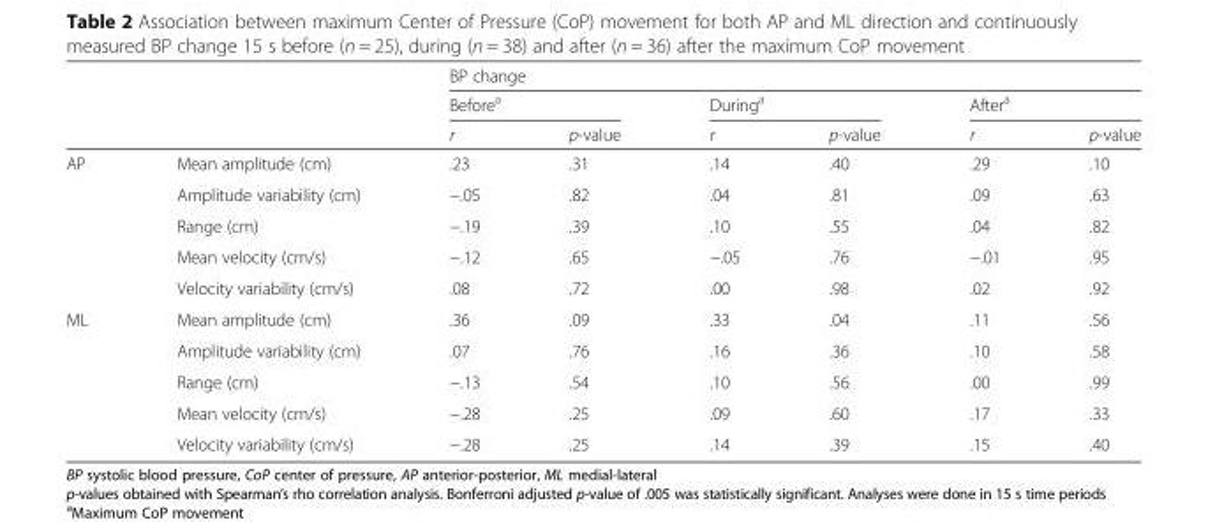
<table><thead><tr><td rowspan="3"></td><td rowspan="3"></td><td colspan="6">BP change</td></tr><tr><td colspan="2">Before<sup>a</sup></td><td colspan="2">During<sup>a</sup></td><td colspan="2">After<sup>a</sup></td></tr><tr><td>r</td><td>p-value</td><td>r</td><td>p-value</td><td>r</td><td>p-value</td></tr></thead><tbody><tr><td rowspan="5">AP</td><td>Mean amplitude (cm)</td><td>.23</td><td>.31</td><td>.14</td><td>.40</td><td>.29</td><td>.10</td></tr><tr><td>Amplitude variability (cm)</td><td>−.05</td><td>.82</td><td>.04</td><td>.81</td><td>.09</td><td>.63</td></tr><tr><td>Range (cm)</td><td>−.19</td><td>.39</td><td>.10</td><td>.55</td><td>.04</td><td>.82</td></tr><tr><td>Mean velocity (cm/s)</td><td>−.12</td><td>.65</td><td>−.05</td><td>.76</td><td>−.01</td><td>.95</td></tr><tr><td>Velocity variability (cm/s)</td><td>.08</td><td>.72</td><td>.00</td><td>.98</td><td>.02</td><td>.92</td></tr><tr><td rowspan="5">ML</td><td>Mean amplitude (cm)</td><td>.36</td><td>.09</td><td>.33</td><td>.04</td><td>.11</td><td>.56</td></tr><tr><td>Amplitude variability (cm)</td><td>.07</td><td>.76</td><td>.16</td><td>.36</td><td>.10</td><td>.58</td></tr><tr><td>Range (cm)</td><td>−.13</td><td>.54</td><td>.10</td><td>.56</td><td>.00</td><td>.99</td></tr><tr><td>Mean velocity (cm/s)</td><td>−.28</td><td>.25</td><td>.09</td><td>.60</td><td>.17</td><td>.33</td></tr><tr><td>Velocity variability (cm/s)</td><td>−.28</td><td>.25</td><td>.14</td><td>.39</td><td>.15</td><td>.40</td></tr></tbody></table>